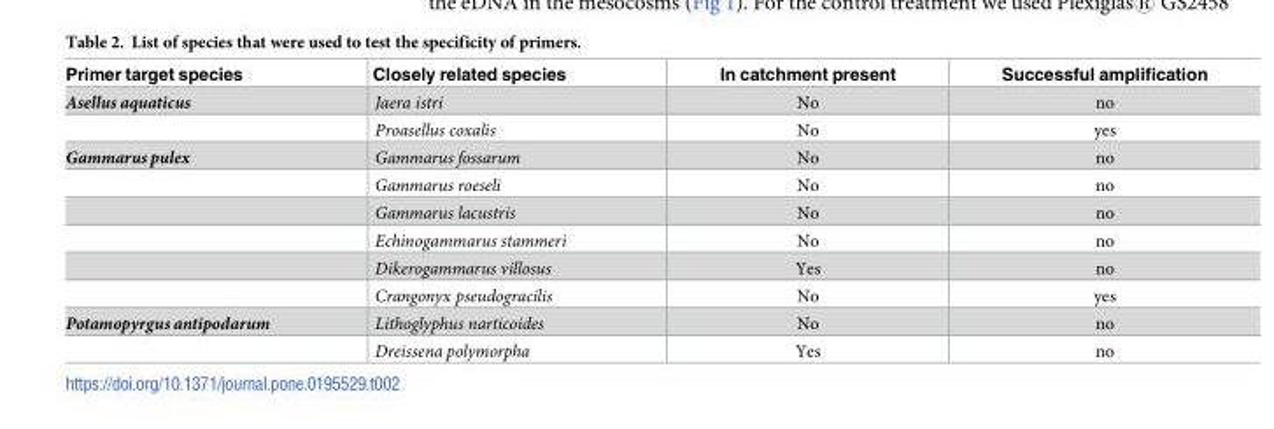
<table><thead><tr><td>Primer target species</td><td>Closely related species</td><td>In catchment present</td><td>Successful amplification</td></tr></thead><tbody><tr><td rowspan="2">Asellus aquaticus</td><td>Jaera istri</td><td>No</td><td>no</td></tr><tr><td>Proasellus coxalis</td><td>No</td><td>yes</td></tr><tr><td rowspan="6">Gammarus pulex</td><td>Gammarus fossarum</td><td>No</td><td>no</td></tr><tr><td>Gammarus roeseli</td><td>No</td><td>no</td></tr><tr><td>Gammarus lacustris</td><td>No</td><td>no</td></tr><tr><td>Echinogammarus stammeri</td><td>No</td><td>no</td></tr><tr><td>Dikerogammarus villosus</td><td>Yes</td><td>no</td></tr><tr><td>Crangonyx pseudogracilis</td><td>No</td><td>yes</td></tr><tr><td rowspan="2">Potamopyrgus antipodarum</td><td>Lithoglyphus narticoides</td><td>No</td><td>no</td></tr><tr><td>Dreissena polymorpha</td><td>Yes</td><td>no</td></tr></tbody></table>